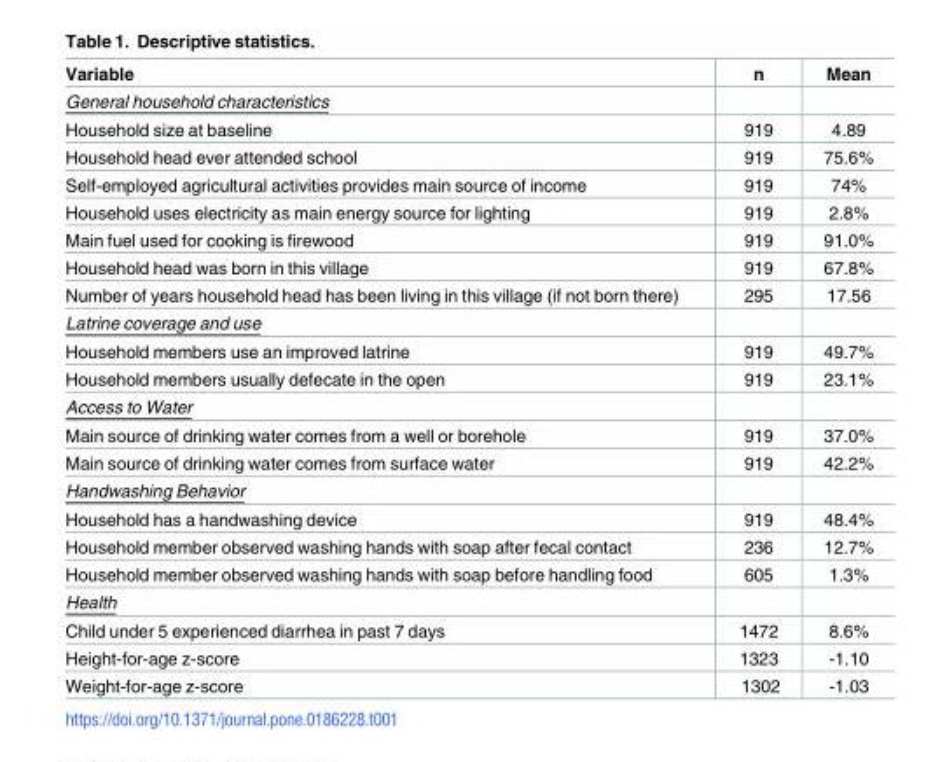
<table><thead><tr><td>Variable</td><td>n</td><td>Mean</td></tr></thead><tbody><tr><td colspan="3">General household characteristics</td></tr><tr><td>Household size at baseline</td><td>919</td><td>4.89</td></tr><tr><td>Household head ever attended school</td><td>919</td><td>75.6%</td></tr><tr><td>Self-employed agricultural activities provides main source of income</td><td>919</td><td>74%</td></tr><tr><td>Household uses electricity as main energy source for lighting</td><td>919</td><td>2.8%</td></tr><tr><td>Main fuel used for cooking is firewood</td><td>919</td><td>91.0%</td></tr><tr><td>Household head was born in this village</td><td>919</td><td>67.8%</td></tr><tr><td>Number of years household head has been living in this village (if not born there)</td><td>295</td><td>17.56</td></tr><tr><td colspan="3">Latrine coverage and use</td></tr><tr><td>Household members use an improved latrine</td><td>919</td><td>49.7%</td></tr><tr><td>Household members usually defecate in the open</td><td>919</td><td>23.1%</td></tr><tr><td colspan="3">Access to Water</td></tr><tr><td>Main source of drinking water comes from a well or borehole</td><td>919</td><td>37.0%</td></tr><tr><td>Main source of drinking water comes from surface water</td><td>919</td><td>42.2%</td></tr><tr><td colspan="3">Handwashing Behavior</td></tr><tr><td>Household has a handwashing device</td><td>919</td><td>48.4%</td></tr><tr><td>Household member observed washing hands with soap after fecal contact</td><td>236</td><td>12.7%</td></tr><tr><td>Household member observed washing hands with soap before handling food</td><td>605</td><td>1.3%</td></tr><tr><td colspan="3">Health</td></tr><tr><td>Child under 5 experienced diarrhea in past 7 days</td><td>1472</td><td>8.6%</td></tr><tr><td>Height-for-age z-score</td><td>1323</td><td>-1.10</td></tr><tr><td>Weight-for-age z-score</td><td>1302</td><td>-1.03</td></tr></tbody></table>